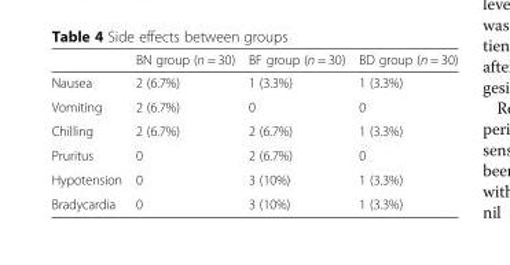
<table><thead><tr><td></td><td>BN group (n = 30)</td><td>BF group (n = 30)</td><td>BD group (n = 30)</td></tr></thead><tbody><tr><td>Nausea</td><td>2 (6.7%)</td><td>1 (3.3%)</td><td>1 (3.3%)</td></tr><tr><td>Vomiting</td><td>2 (6.7%)</td><td>0</td><td>0</td></tr><tr><td>Chilling</td><td>2 (6.7%)</td><td>2 (6.7%)</td><td>1 (3.3%)</td></tr><tr><td>Pruritus</td><td>0</td><td>2 (6.7%)</td><td>0</td></tr><tr><td>Hypotension</td><td>0</td><td>3 (10%)</td><td>1 (3.3%)</td></tr><tr><td>Bradycardia</td><td>0</td><td>3 (10%)</td><td>1 (3.3%)</td></tr></tbody></table>